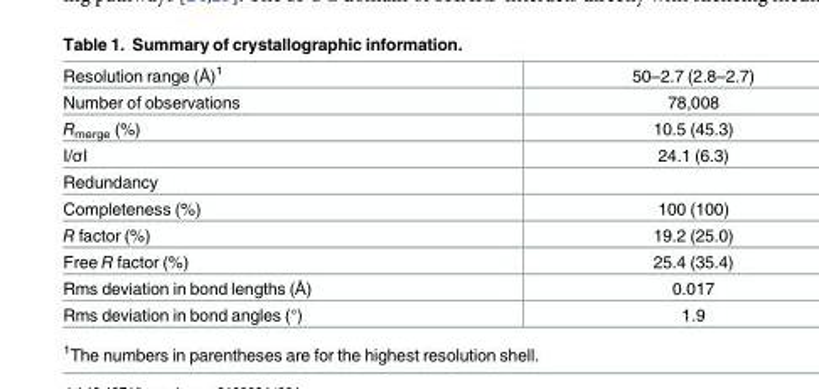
<table><tbody><tr><td>Resolution range (Å)<sup>1</sup></td><td>50–2.7 (2.8–2.7)</td></tr><tr><td>Number of observations</td><td>78,008</td></tr><tr><td>R<sub>merge</sub> (%)</td><td>10.5 (45.3)</td></tr><tr><td>I/σI</td><td>24.1 (6.3)</td></tr><tr><td colspan="2">Redundancy</td></tr><tr><td>Completeness (%)</td><td>100 (100)</td></tr><tr><td>R factor (%)</td><td>19.2 (25.0)</td></tr><tr><td>Free R factor (%)</td><td>25.4 (35.4)</td></tr><tr><td>Rms deviation in bond lengths (Å)</td><td>0.017</td></tr><tr><td>Rms deviation in bond angles (°)</td><td>1.9</td></tr></tbody></table>